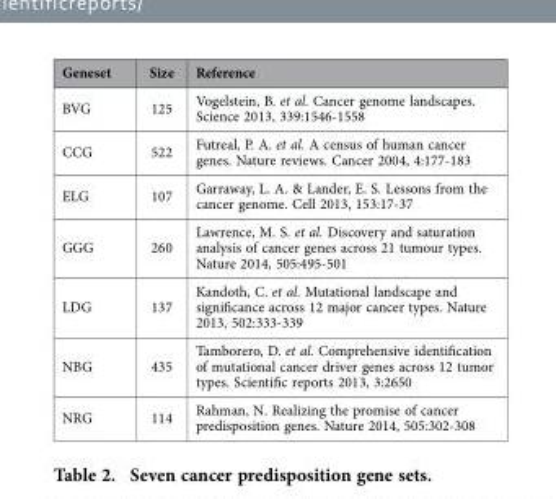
<table><thead><tr><td>Geneset</td><td>Size</td><td>Reference</td></tr></thead><tbody><tr><td>BVG</td><td>125</td><td>Vogelstein, B. et al. Cancer genome landscapes. Science 2013, 339:1546-1558</td></tr><tr><td>CCG</td><td>522</td><td>Futreal, P. A. et al. A census of human cancer genes. Nature reviews. Cancer 2004, 4:177-183</td></tr><tr><td>ELG</td><td>107</td><td>Garraway, L. A. &amp; Lander, E. S. Lessons from the cancer genome. Cell 2013, 153:17-37</td></tr><tr><td>GGG</td><td>260</td><td>Lawrence, M. S. et al. Discovery and saturation analysis of cancer genes across 21 tumour types. Nature 2014, 505:495-501</td></tr><tr><td>LDG</td><td>137</td><td>Kandoth, C. et al. Mutational landscape and significance across 12 major cancer types. Nature 2013, 502:333-339</td></tr><tr><td>NBG</td><td>435</td><td>Tamborero, D. et al. Comprehensive identification of mutational cancer driver genes across 12 tumor types. Scientific reports 2013, 3:2650</td></tr><tr><td>NRG</td><td>114</td><td>Rahman, N. Realizing the promise of cancer predisposition genes. Nature 2014, 505:302-308</td></tr></tbody></table>